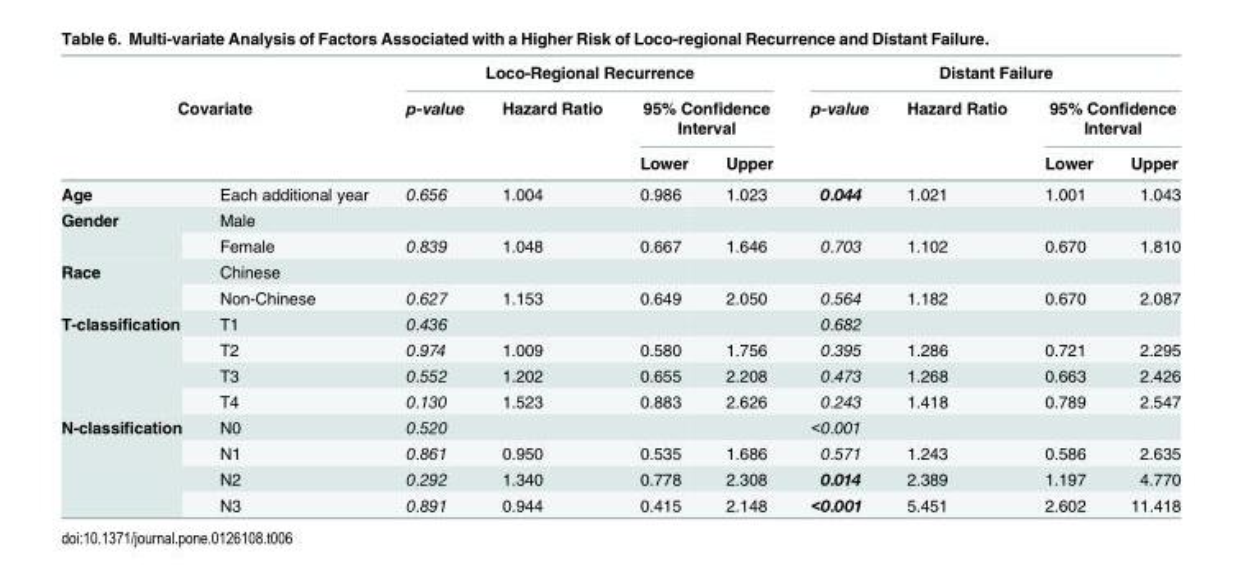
<table><thead><tr><td></td><td></td><td colspan="4">Loco-Regional Recurrence</td><td colspan="4">Distant Failure</td></tr><tr><td rowspan="2" colspan="2">Covariate</td><td rowspan="2">p-value</td><td rowspan="2">Hazard Ratio</td><td colspan="2">95% Confidence Interval</td><td rowspan="2">p-value</td><td rowspan="2">Hazard Ratio</td><td colspan="2">95% Confidence Interval</td></tr><tr><td>Lower</td><td>Upper</td><td>Lower</td><td>Upper</td></tr></thead><tbody><tr><td>Age</td><td>Each additional year</td><td>0.656</td><td>1.004</td><td>0.986</td><td>1.023</td><td>0.044</td><td>1.021</td><td>1.001</td><td>1.043</td></tr><tr><td rowspan="2">Gender</td><td>Male</td><td></td><td></td><td></td><td></td><td></td><td></td><td></td><td></td></tr><tr><td>Female</td><td>0.839</td><td>1.048</td><td>0.667</td><td>1.646</td><td>0.703</td><td>1.102</td><td>0.670</td><td>1.810</td></tr><tr><td rowspan="2">Race</td><td>Chinese</td><td></td><td></td><td></td><td></td><td></td><td></td><td></td><td></td></tr><tr><td>Non-Chinese</td><td>0.627</td><td>1.153</td><td>0.649</td><td>2.050</td><td>0.564</td><td>1.182</td><td>0.670</td><td>2.087</td></tr><tr><td rowspan="4">T-classification</td><td>T1</td><td>0.436</td><td></td><td></td><td></td><td>0.682</td><td></td><td></td><td></td></tr><tr><td>T2</td><td>0.974</td><td>1.009</td><td>0.580</td><td>1.756</td><td>0.395</td><td>1.286</td><td>0.721</td><td>2.295</td></tr><tr><td>T3</td><td>0.552</td><td>1.202</td><td>0.655</td><td>2.208</td><td>0.473</td><td>1.268</td><td>0.663</td><td>2.426</td></tr><tr><td>T4</td><td>0.130</td><td>1.523</td><td>0.883</td><td>2.626</td><td>0.243</td><td>1.418</td><td>0.789</td><td>2.547</td></tr><tr><td rowspan="4">N-classification</td><td>N0</td><td>0.520</td><td></td><td></td><td></td><td>&lt;0.001</td><td></td><td></td><td></td></tr><tr><td>N1</td><td>0.861</td><td>0.950</td><td>0.535</td><td>1.686</td><td>0.571</td><td>1.243</td><td>0.586</td><td>2.635</td></tr><tr><td>N2</td><td>0.292</td><td>1.340</td><td>0.778</td><td>2.308</td><td>0.014</td><td>2.389</td><td>1.197</td><td>4.770</td></tr><tr><td>N3</td><td>0.891</td><td>0.944</td><td>0.415</td><td>2.148</td><td>&lt;0.001</td><td>5.451</td><td>2.602</td><td>11.418</td></tr></tbody></table>